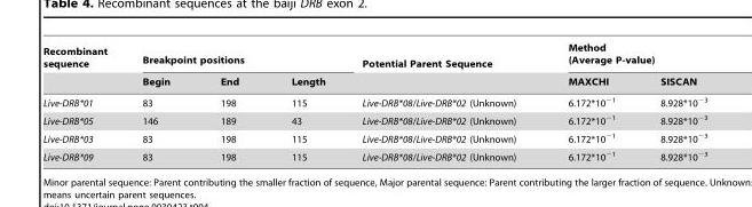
<table><thead><tr><td rowspan="2">Recombinant sequence</td><td colspan="3">Breakpoint positions</td><td rowspan="2">Potential Parent Sequence</td><td colspan="2">Method (Average P-value)</td></tr><tr><td>Begin</td><td>End</td><td>Length</td><td>MAXCHI</td><td>SISCAN</td></tr></thead><tbody><tr><td>Live-DRB*01</td><td>83</td><td>198</td><td>115</td><td>Live-DRB*08/Live-DRB*02 (Unknown)</td><td>6.172*10<sup>−1</sup></td><td>8.928*10<sup>−3</sup></td></tr><tr><td>Live-DRB*05</td><td>146</td><td>189</td><td>43</td><td>Live-DRB*08/Live-DRB*02 (Unknown)</td><td>6.172*10<sup>−1</sup></td><td>8.928*10<sup>−3</sup></td></tr><tr><td>Live-DRB*03</td><td>83</td><td>198</td><td>115</td><td>Live-DRB*08/Live-DRB*02 (Unknown)</td><td>6.172*10<sup>−1</sup></td><td>8.928*10<sup>−3</sup></td></tr><tr><td>Live-DRB*09</td><td>83</td><td>198</td><td>115</td><td>Live-DRB*08/Live-DRB*02 (Unknown)</td><td>6.172*10<sup>−1</sup></td><td>8.928*10<sup>−3</sup></td></tr></tbody></table>